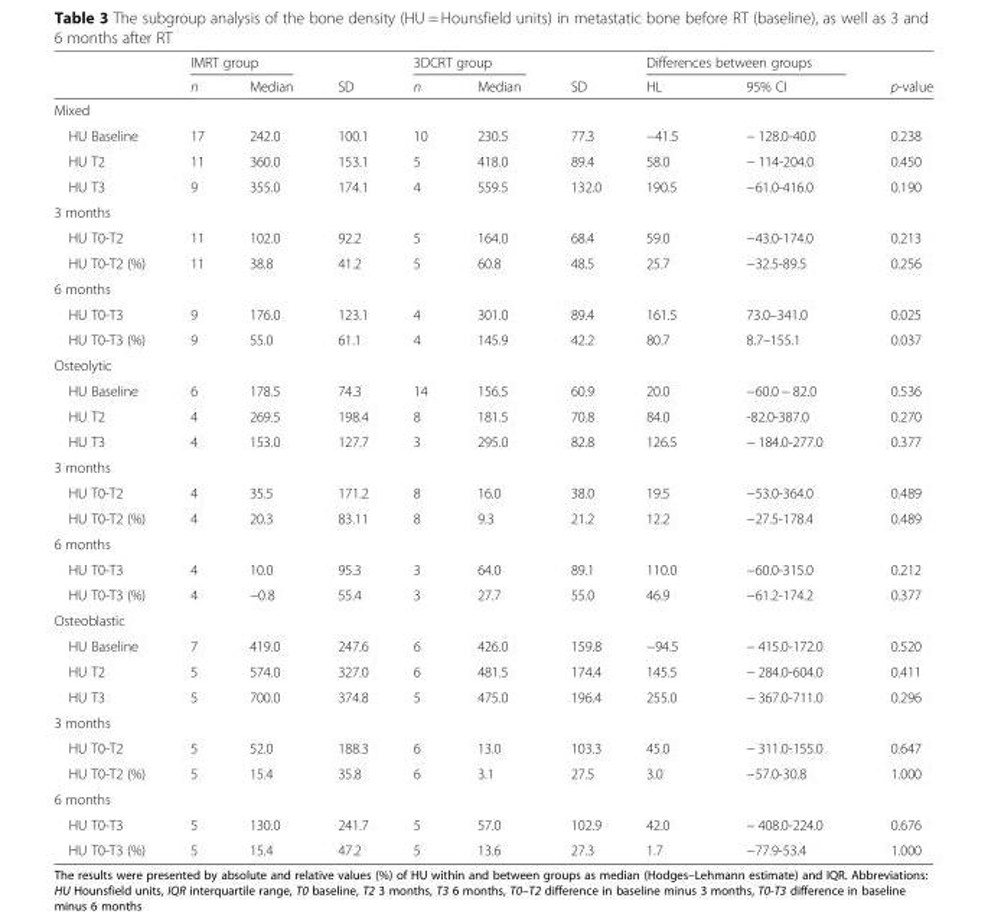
<table><thead><tr><td rowspan="2"></td><td colspan="2">IMRT group</td><td rowspan="2">SD</td><td colspan="2">3DCRT group</td><td rowspan="2">SD</td><td colspan="2">Differences between groups</td><td rowspan="2">p-value</td></tr><tr><td>n</td><td>Median</td><td>n</td><td>Median</td><td>HL</td><td>95% CI</td></tr></thead><tbody><tr><td colspan="10">Mixed</td></tr><tr><td>HU Baseline</td><td>17</td><td>242.0</td><td>100.1</td><td>10</td><td>230.5</td><td>77.3</td><td>−41.5</td><td>− 128.0-40.0</td><td>0.238</td></tr><tr><td>HU T2</td><td>11</td><td>360.0</td><td>153.1</td><td>5</td><td>418.0</td><td>89.4</td><td>58.0</td><td>− 114-204.0</td><td>0.450</td></tr><tr><td>HU T3</td><td>9</td><td>355.0</td><td>174.1</td><td>4</td><td>559.5</td><td>132.0</td><td>190.5</td><td>−61.0-416.0</td><td>0.190</td></tr><tr><td colspan="10">3 months</td></tr><tr><td>HU T0-T2</td><td>11</td><td>102.0</td><td>92.2</td><td>5</td><td>164.0</td><td>68.4</td><td>59.0</td><td>−43.0-174.0</td><td>0.213</td></tr><tr><td>HU T0-T2 (%)</td><td>11</td><td>38.8</td><td>41.2</td><td>5</td><td>60.8</td><td>48.5</td><td>25.7</td><td>−32.5-89.5</td><td>0.256</td></tr><tr><td colspan="10">6 months</td></tr><tr><td>HU T0-T3</td><td>9</td><td>176.0</td><td>123.1</td><td>4</td><td>301.0</td><td>89.4</td><td>161.5</td><td>73.0–341.0</td><td>0.025</td></tr><tr><td>HU T0-T3 (%)</td><td>9</td><td>55.0</td><td>61.1</td><td>4</td><td>145.9</td><td>42.2</td><td>80.7</td><td>8.7–155.1</td><td>0.037</td></tr><tr><td colspan="10">Osteolytic</td></tr><tr><td>HU Baseline</td><td>6</td><td>178.5</td><td>74.3</td><td>14</td><td>156.5</td><td>60.9</td><td>20.0</td><td>−60.0 − 82.0</td><td>0.536</td></tr><tr><td>HU T2</td><td>4</td><td>269.5</td><td>198.4</td><td>8</td><td>181.5</td><td>70.8</td><td>84.0</td><td>-82.0-387.0</td><td>0.270</td></tr><tr><td>HU T3</td><td>4</td><td>153.0</td><td>127.7</td><td>3</td><td>295.0</td><td>82.8</td><td>126.5</td><td>− 184.0-277.0</td><td>0.377</td></tr><tr><td colspan="10">3 months</td></tr><tr><td>HU T0-T2</td><td>4</td><td>35.5</td><td>171.2</td><td>8</td><td>16.0</td><td>38.0</td><td>19.5</td><td>−53.0-364.0</td><td>0.489</td></tr><tr><td>HU T0-T2 (%)</td><td>4</td><td>20.3</td><td>83.11</td><td>8</td><td>9.3</td><td>21.2</td><td>12.2</td><td>−27.5-178.4</td><td>0.489</td></tr><tr><td colspan="10">6 months</td></tr><tr><td>HU T0-T3</td><td>4</td><td>10.0</td><td>95.3</td><td>3</td><td>64.0</td><td>89.1</td><td>110.0</td><td>−60.0-315.0</td><td>0.212</td></tr><tr><td>HU T0-T3 (%)</td><td>4</td><td>−0.8</td><td>55.4</td><td>3</td><td>27.7</td><td>55.0</td><td>46.9</td><td>−61.2-174.2</td><td>0.377</td></tr><tr><td colspan="10">Osteoblastic</td></tr><tr><td>HU Baseline</td><td>7</td><td>419.0</td><td>247.6</td><td>6</td><td>426.0</td><td>159.8</td><td>−94.5</td><td>− 415.0-172.0</td><td>0.520</td></tr><tr><td>HU T2</td><td>5</td><td>574.0</td><td>327.0</td><td>6</td><td>481.5</td><td>174.4</td><td>145.5</td><td>− 284.0-604.0</td><td>0.411</td></tr><tr><td>HU T3</td><td>5</td><td>700.0</td><td>374.8</td><td>5</td><td>475.0</td><td>196.4</td><td>255.0</td><td>− 367.0-711.0</td><td>0.296</td></tr><tr><td colspan="10">3 months</td></tr><tr><td>HU T0-T2</td><td>5</td><td>52.0</td><td>188.3</td><td>6</td><td>13.0</td><td>103.3</td><td>45.0</td><td>− 311.0-155.0</td><td>0.647</td></tr><tr><td>HU T0-T2 (%)</td><td>5</td><td>15.4</td><td>35.8</td><td>6</td><td>3.1</td><td>27.5</td><td>3.0</td><td>−57.0-30.8</td><td>1.000</td></tr><tr><td colspan="10">6 months</td></tr><tr><td>HU T0-T3</td><td>5</td><td>130.0</td><td>241.7</td><td>5</td><td>57.0</td><td>102.9</td><td>42.0</td><td>− 408.0-224.0</td><td>0.676</td></tr><tr><td>HU T0-T3 (%)</td><td>5</td><td>15.4</td><td>47.2</td><td>5</td><td>13.6</td><td>27.3</td><td>1.7</td><td>−77.9-53.4</td><td>1.000</td></tr></tbody></table>